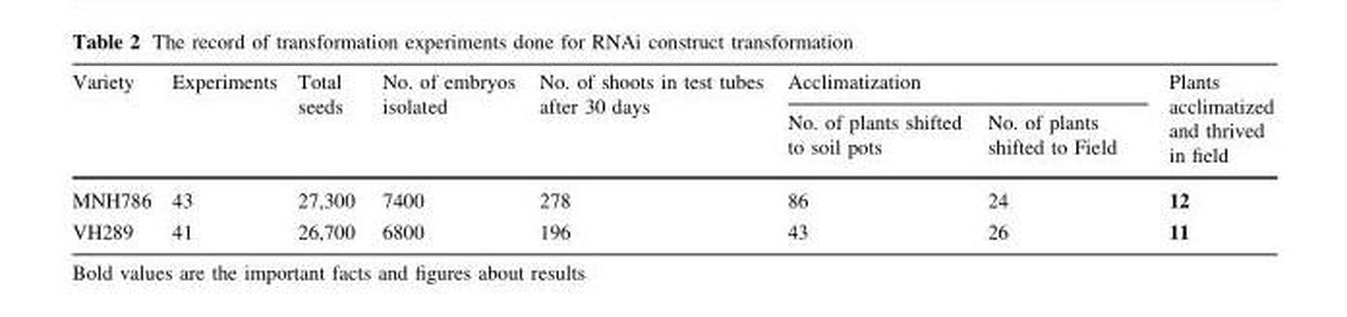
<table><thead><tr><td rowspan="2">Variety</td><td rowspan="2">Experiments</td><td rowspan="2">Total seeds</td><td rowspan="2">No. of embryos isolated</td><td rowspan="2">No. of shoots in test tubes after 30 days</td><td colspan="2">Acclimatization</td><td rowspan="2">Plants acclimatized and thrived in field</td></tr><tr><td>No. of plants shifted to soil pots</td><td>No. of plants shifted to Field</td></tr></thead><tbody><tr><td>MNH786</td><td>43</td><td>27,300</td><td>7400</td><td>278</td><td>86</td><td>24</td><td>12</td></tr><tr><td>VH289</td><td>41</td><td>26,700</td><td>6800</td><td>196</td><td>43</td><td>26</td><td>11</td></tr></tbody></table>